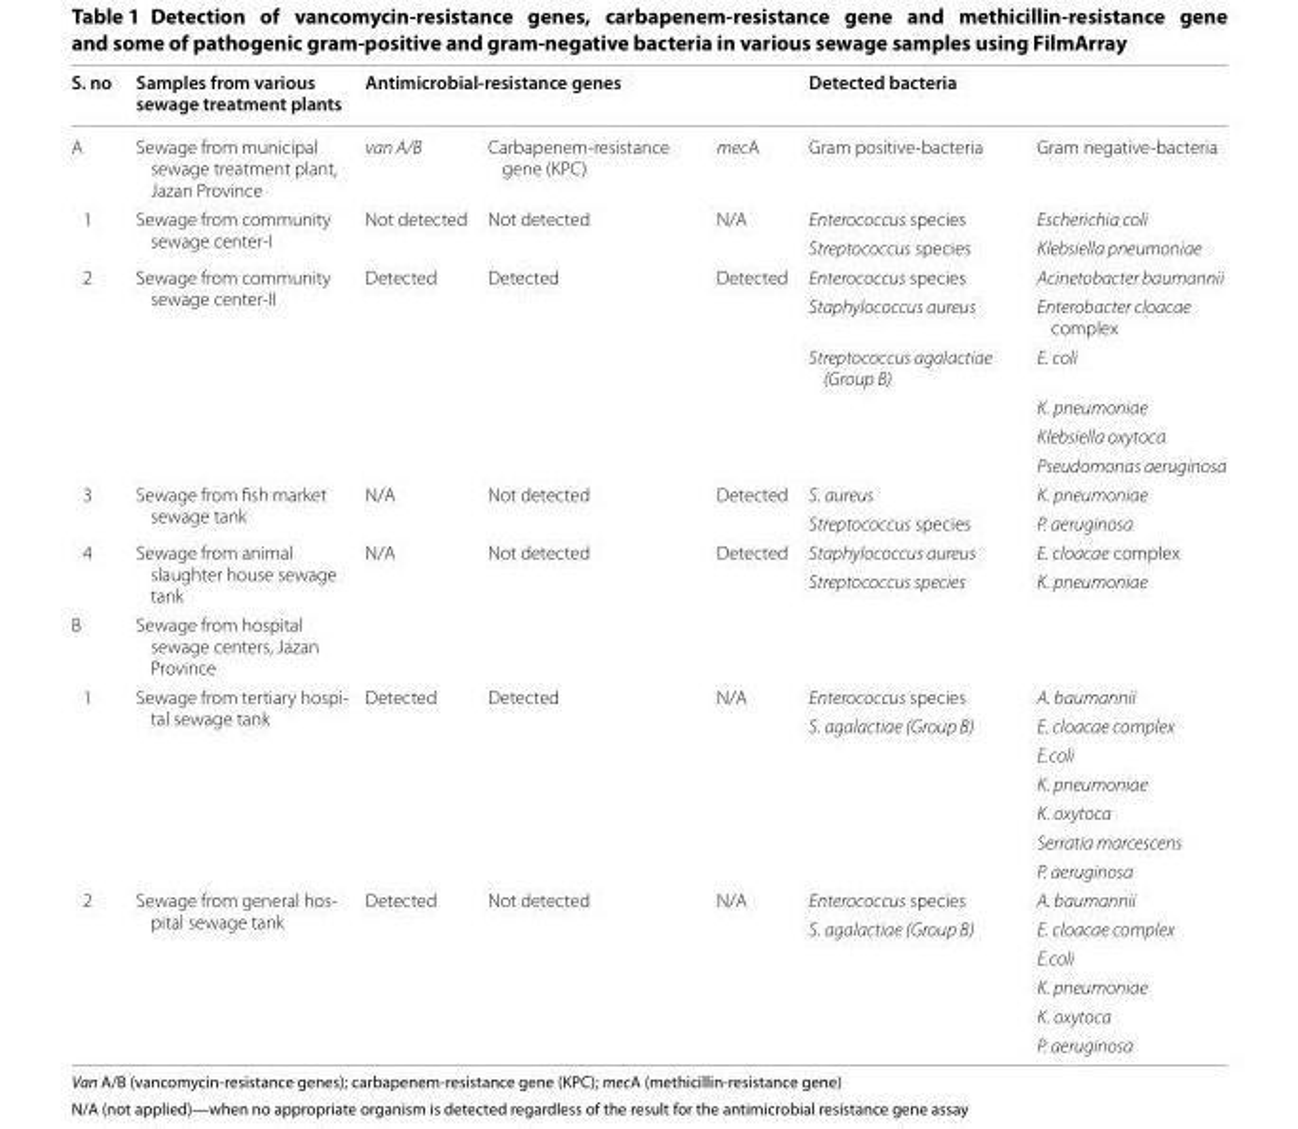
<table><thead><tr><td rowspan="2">S. no A</td><td rowspan="2">Samples from various sewage treatment plants Sewage from municipal sewage treatment plant, Jazan Province</td><td colspan="3">Antimicrobial-resistance genes</td><td colspan="2">Detected bacteria</td></tr><tr><td>van A/B</td><td>Carbapenem-resistance gene (KPC)</td><td>mecA</td><td>Gram positive-bacteria</td><td>Gram negative-bacteria</td></tr></thead><tbody><tr><td rowspan="2">1</td><td rowspan="2">Sewage from community sewage center-I</td><td rowspan="2">Not detected</td><td rowspan="2">Not detected</td><td rowspan="2">N/A</td><td>Enterococcus species</td><td>Escherichia coli</td></tr><tr><td>Streptococcus species</td><td>Klebsiella pneumoniae</td></tr><tr><td rowspan="6">2</td><td rowspan="6">Sewage from community sewage center-II</td><td rowspan="6">Detected</td><td rowspan="6">Detected</td><td rowspan="6">Detected</td><td>Enterococcus species</td><td>Acinetobacter baumannii</td></tr><tr><td>Staphylococcus aureus</td><td>Enterobacter cloacae complex</td></tr><tr><td>Streptococcus agalactiae (Group B)</td><td>E. coli</td></tr><tr><td></td><td>K. pneumoniae</td></tr><tr><td></td><td>Klebsiella oxytoca</td></tr><tr><td></td><td>Pseudomonas aeruginosa</td></tr><tr><td rowspan="2">3</td><td rowspan="2">Sewage from fish market sewage tank</td><td rowspan="2">N/A</td><td rowspan="2">Not detected</td><td rowspan="2">Detected</td><td>S. aureus</td><td>K. pneumoniae</td></tr><tr><td>Streptococcus species</td><td>P. aeruginosa</td></tr><tr><td rowspan="2">4</td><td rowspan="2">Sewage from animal slaughter house sewage tank</td><td rowspan="2">N/A</td><td rowspan="2">Not detected</td><td rowspan="2">Detected</td><td>Staphylococcus aureus</td><td>E. cloacae complex</td></tr><tr><td>Streptococcus species</td><td>K. pneumoniae</td></tr><tr><td>B</td><td>Sewage from hospital sewage centers, Jazan Province</td><td></td><td></td><td></td><td></td><td></td></tr><tr><td rowspan="7">1</td><td rowspan="7">Sewage from tertiary hospi- tal sewage tank</td><td rowspan="7">Detected</td><td rowspan="7">Detected</td><td rowspan="7">N/A</td><td>Enterococcus species</td><td>A. baumannii</td></tr><tr><td>S. agalactiae (Group B)</td><td>E. cloacae complex</td></tr><tr><td></td><td>E.coli</td></tr><tr><td></td><td>K. pneumoniae</td></tr><tr><td></td><td>K. oxytoca</td></tr><tr><td></td><td>Serratia marcescens</td></tr><tr><td></td><td>P. aeruginosa</td></tr><tr><td rowspan="6">2</td><td rowspan="6">Sewage from general hos- pital sewage tank</td><td rowspan="6">Detected</td><td rowspan="6">Not detected</td><td rowspan="6">N/A</td><td>Enterococcus species</td><td>A. baumannii</td></tr><tr><td>S. agalactiae (Group B)</td><td>E. cloacae complex</td></tr><tr><td></td><td>E.coli</td></tr><tr><td></td><td>K. pneumoniae</td></tr><tr><td></td><td>K. oxytoca</td></tr><tr><td></td><td>P. aeruginosa</td></tr></tbody></table>